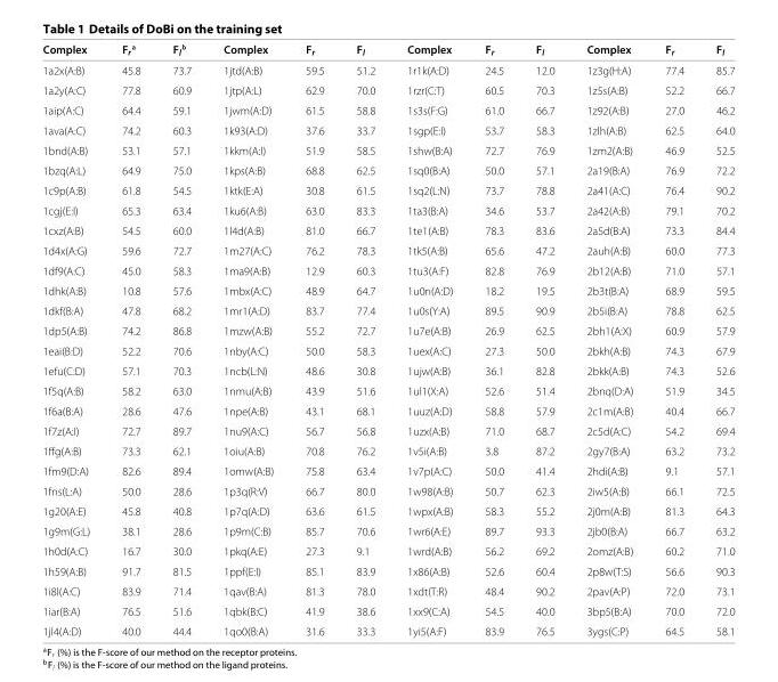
<table><thead><tr><td>Complex</td><td>F<sub>r</sub> <sup>a</sup></td><td>F<sub>l</sub> <sup>b</sup></td><td>Complex</td><td>F<sub>r</sub></td><td>F<sub>l</sub></td><td>Complex</td><td>F<sub>r</sub></td><td>F<sub>l</sub></td><td>Complex</td><td>F<sub>r</sub></td><td>F<sub>l</sub></td></tr></thead><tbody><tr><td>1a2x(A:B)</td><td>45.8</td><td>73.7</td><td>1jtd(A:B)</td><td>59.5</td><td>51.2</td><td>1r1k(A:D)</td><td>24.5</td><td>12.0</td><td>1z3g(H:A)</td><td>77.4</td><td>85.7</td></tr><tr><td>1a2y(A:C)</td><td>77.8</td><td>60.9</td><td>1jtp(A:L)</td><td>62.9</td><td>70.0</td><td>1rzr(C:T)</td><td>60.5</td><td>70.3</td><td>1z5s(A:B)</td><td>52.2</td><td>66.7</td></tr><tr><td>1aip(A:C)</td><td>64.4</td><td>59.1</td><td>1jwm(A:D)</td><td>61.5</td><td>58.8</td><td>1s3s(F:G)</td><td>61.0</td><td>66.7</td><td>1z92(A:B)</td><td>27.0</td><td>46.2</td></tr><tr><td>1ava(A:C)</td><td>74.2</td><td>60.3</td><td>1k93(A:D)</td><td>37.6</td><td>33.7</td><td>1sgp(E:I)</td><td>53.7</td><td>58.3</td><td>1zlh(A:B)</td><td>62.5</td><td>64.0</td></tr><tr><td>1bnd(A:B)</td><td>53.1</td><td>57.1</td><td>1kkm(A:I)</td><td>51.9</td><td>58.5</td><td>1shw(B:A)</td><td>72.7</td><td>76.9</td><td>1zm2(A:B)</td><td>46.9</td><td>52.5</td></tr><tr><td>1bzq(A:L)</td><td>64.9</td><td>75.0</td><td>1kps(A:B)</td><td>68.8</td><td>62.5</td><td>1sq0(B:A)</td><td>50.0</td><td>57.1</td><td>2a19(B:A)</td><td>76.9</td><td>72.2</td></tr><tr><td>1c9p(A:B)</td><td>61.8</td><td>54.5</td><td>1ktk(E:A)</td><td>30.8</td><td>61.5</td><td>1sq2(L:N)</td><td>73.7</td><td>78.8</td><td>2a41(A:C)</td><td>76.4</td><td>90.2</td></tr><tr><td>1cgj(E:I)</td><td>65.3</td><td>63.4</td><td>1ku6(A:B)</td><td>63.0</td><td>83.3</td><td>1ta3(B:A)</td><td>34.6</td><td>53.7</td><td>2a42(A:B)</td><td>79.1</td><td>70.2</td></tr><tr><td>1cxz(A:B)</td><td>54.5</td><td>60.0</td><td>1l4d(A:B)</td><td>81.0</td><td>66.7</td><td>1te1(A:B)</td><td>78.3</td><td>83.6</td><td>2a5d(B:A)</td><td>73.3</td><td>84.4</td></tr><tr><td>1d4x(A:G)</td><td>59.6</td><td>72.7</td><td>1m27(A:C)</td><td>76.2</td><td>78.3</td><td>1tk5(A:B)</td><td>65.6</td><td>47.2</td><td>2auh(A:B)</td><td>60.0</td><td>77.3</td></tr><tr><td>1df9(A:C)</td><td>45.0</td><td>58.3</td><td>1ma9(A:B)</td><td>12.9</td><td>60.3</td><td>1tu3(A:F)</td><td>82.8</td><td>76.9</td><td>2b12(A:B)</td><td>71.0</td><td>57.1</td></tr><tr><td>1dhk(A:B)</td><td>10.8</td><td>57.6</td><td>1mbx(A:C)</td><td>48.9</td><td>64.7</td><td>1u0n(A:D)</td><td>18.2</td><td>19.5</td><td>2b3t(B:A)</td><td>68.9</td><td>59.5</td></tr><tr><td>1dkf(B:A)</td><td>47.8</td><td>68.2</td><td>1mr1(A:D)</td><td>83.7</td><td>77.4</td><td>1u0s(Y:A)</td><td>89.5</td><td>90.9</td><td>2b5i(B:A)</td><td>78.8</td><td>62.5</td></tr><tr><td>1dp5(A:B)</td><td>74.2</td><td>86.8</td><td>1mzw(A:B)</td><td>55.2</td><td>72.7</td><td>1u7e(A:B)</td><td>26.9</td><td>62.5</td><td>2bh1(A:X)</td><td>60.9</td><td>57.9</td></tr><tr><td>1eai(B:D)</td><td>52.2</td><td>70.6</td><td>1nby(A:C)</td><td>50.0</td><td>58.3</td><td>1uex(A:C)</td><td>27.3</td><td>50.0</td><td>2bkh(A:B)</td><td>74.3</td><td>67.9</td></tr><tr><td>1efu(C:D)</td><td>57.1</td><td>70.3</td><td>1ncb(L:N)</td><td>48.6</td><td>30.8</td><td>1ujw(A:B)</td><td>36.1</td><td>82.8</td><td>2bkk(A:B)</td><td>74.3</td><td>52.6</td></tr><tr><td>1f5q(A:B)</td><td>58.2</td><td>63.0</td><td>1nmu(A:B)</td><td>43.9</td><td>51.6</td><td>1ul1(X:A)</td><td>52.6</td><td>51.4</td><td>2bnq(D:A)</td><td>51.9</td><td>34.5</td></tr><tr><td>1f6a(B:A)</td><td>28.6</td><td>47.6</td><td>1npe(A:B)</td><td>43.1</td><td>68.1</td><td>1uuz(A:D)</td><td>58.8</td><td>57.9</td><td>2c1m(A:B)</td><td>40.4</td><td>66.7</td></tr><tr><td>1f7z(A:I)</td><td>72.7</td><td>89.7</td><td>1nu9(A:C)</td><td>56.7</td><td>56.8</td><td>1uzx(A:B)</td><td>71.0</td><td>68.7</td><td>2c5d(A:C)</td><td>54.2</td><td>69.4</td></tr><tr><td>1ffg(A:B)</td><td>73.3</td><td>62.1</td><td>1oiu(A:B)</td><td>70.8</td><td>76.2</td><td>1v5i(A:B)</td><td>3.8</td><td>87.2</td><td>2gy7(B:A)</td><td>63.2</td><td>73.2</td></tr><tr><td>1fm9(D:A)</td><td>82.6</td><td>89.4</td><td>1omw(A:B)</td><td>75.8</td><td>63.4</td><td>1v7p(A:C)</td><td>50.0</td><td>41.4</td><td>2hdi(A:B)</td><td>9.1</td><td>57.1</td></tr><tr><td>1fns(L:A)</td><td>50.0</td><td>28.6</td><td>1p3q(R:V)</td><td>66.7</td><td>80.0</td><td>1w98(A:B)</td><td>50.7</td><td>62.3</td><td>2iw5(A:B)</td><td>66.1</td><td>72.5</td></tr><tr><td>1g20(A:E)</td><td>45.8</td><td>40.8</td><td>1p7q(A:D)</td><td>63.6</td><td>61.5</td><td>1wpx(A:B)</td><td>58.3</td><td>55.2</td><td>2j0m(A:B)</td><td>81.3</td><td>64.3</td></tr><tr><td>1g9m(G:L)</td><td>38.1</td><td>28.6</td><td>1p9m(C:B)</td><td>85.7</td><td>70.6</td><td>1wr6(A:E)</td><td>89.7</td><td>93.3</td><td>2jb0(B:A)</td><td>66.7</td><td>63.2</td></tr><tr><td>1h0d(A:C)</td><td>16.7</td><td>30.0</td><td>1pkq(A:E)</td><td>27.3</td><td>9.1</td><td>1wrd(A:B)</td><td>56.2</td><td>69.2</td><td>2omz(A:B)</td><td>60.2</td><td>71.0</td></tr><tr><td>1h59(A:B)</td><td>91.7</td><td>81.5</td><td>1ppf(E:I)</td><td>85.1</td><td>83.9</td><td>1x86(A:B)</td><td>52.6</td><td>60.4</td><td>2p8w(T:S)</td><td>56.6</td><td>90.3</td></tr><tr><td>1i8l(A:C)</td><td>83.9</td><td>71.4</td><td>1qav(B:A)</td><td>81.3</td><td>78.0</td><td>1xdt(T:R)</td><td>48.4</td><td>90.2</td><td>2pav(A:P)</td><td>72.0</td><td>73.1</td></tr><tr><td>1iar(B:A)</td><td>76.5</td><td>51.6</td><td>1qbk(B:C)</td><td>41.9</td><td>38.6</td><td>1xx9(C:A)</td><td>54.5</td><td>40.0</td><td>3bp5(B:A)</td><td>70.0</td><td>72.0</td></tr><tr><td>1jl4(A:D)</td><td>40.0</td><td>44.4</td><td>1qo0(B:A)</td><td>31.6</td><td>33.3</td><td>1yi5(A:F)</td><td>83.9</td><td>76.5</td><td>3ygs(C:P)</td><td>64.5</td><td>58.1</td></tr></tbody></table>